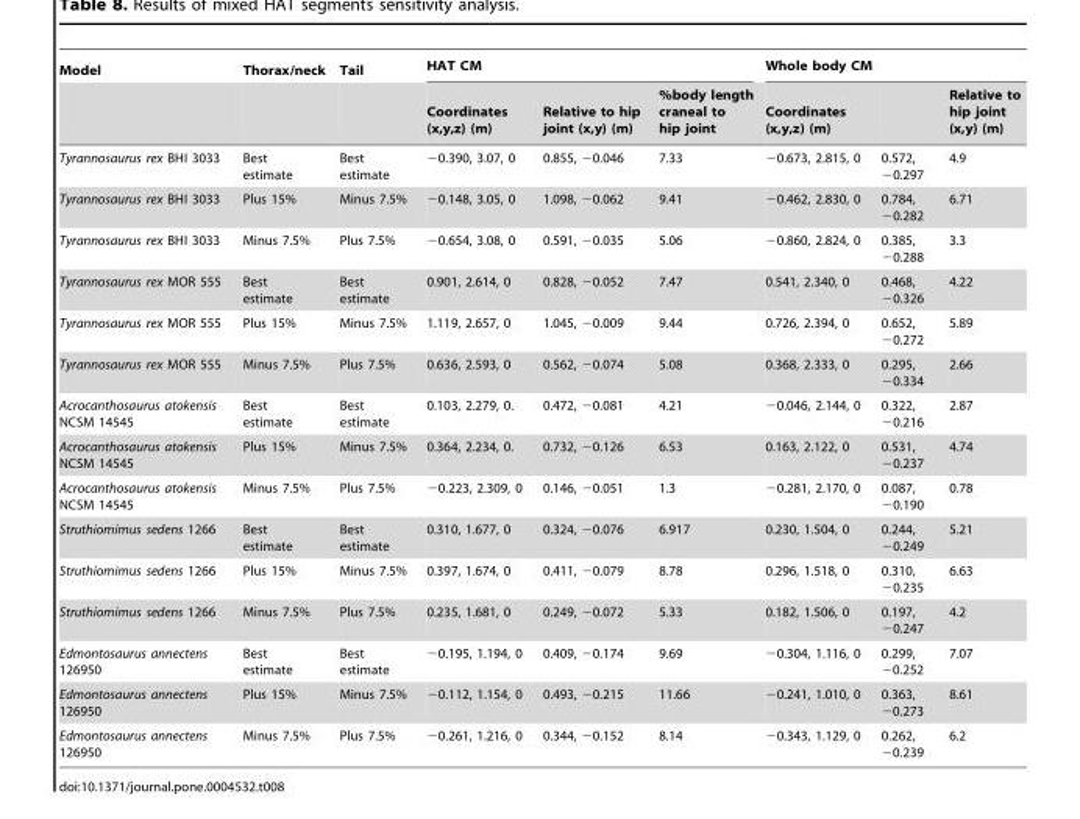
<table><thead><tr><td rowspan="2">Model</td><td rowspan="2">Thorax/neck</td><td rowspan="2">Tail</td><td colspan="3">HAT CM</td><td colspan="3">Whole body CM</td></tr><tr><td>Coordinates (x,y,z) (m)</td><td>Relative to hip joint (x,y) (m)</td><td>%body length craneal to hip joint</td><td>Coordinates (x,y,z) (m)</td><td></td><td>Relative to hip joint (x,y) (m)</td></tr></thead><tbody><tr><td>Tyrannosaurus rex BHI 3033</td><td>Best estimate</td><td>Best estimate</td><td>−0.390, 3.07, 0</td><td>0.855, −0.046</td><td>7.33</td><td>−0.673, 2.815, 0</td><td>0.572, −0.297</td><td>4.9</td></tr><tr><td>Tyrannosaurus rex BHI 3033</td><td>Plus 15%</td><td>Minus 7.5%</td><td>−0.148, 3.05, 0</td><td>1.098, −0.062</td><td>9.41</td><td>−0.462, 2.830, 0</td><td>0.784, −0.282</td><td>6.71</td></tr><tr><td>Tyrannosaurus rex BHI 3033</td><td>Minus 7.5%</td><td>Plus 7.5%</td><td>−0.654, 3.08, 0</td><td>0.591, −0.035</td><td>5.06</td><td>−0.860, 2.824, 0</td><td>0.385, −0.288</td><td>3.3</td></tr><tr><td>Tyrannosaurus rex MOR 555</td><td>Best estimate</td><td>Best estimate</td><td>0.901, 2.614, 0</td><td>0.828, −0.052</td><td>7.47</td><td>0.541, 2.340, 0</td><td>0.468, −0.326</td><td>4.22</td></tr><tr><td>Tyrannosaurus rex MOR 555</td><td>Plus 15%</td><td>Minus 7.5%</td><td>1.119, 2.657, 0</td><td>1.045, −0.009</td><td>9.44</td><td>0.726, 2.394, 0</td><td>0.652, −0.272</td><td>5.89</td></tr><tr><td>Tyrannosaurus rex MOR 555</td><td>Minus 7.5%</td><td>Plus 7.5%</td><td>0.636, 2.593, 0</td><td>0.562, −0.074</td><td>5.08</td><td>0.368, 2.333, 0</td><td>0.295, −0.334</td><td>2.66</td></tr><tr><td>Acrocanthosaurus atokensis NCSM 14545</td><td>Best estimate</td><td>Best estimate</td><td>0.103, 2.279, 0.</td><td>0.472, −0.081</td><td>4.21</td><td>−0.046, 2.144, 0</td><td>0.322, −0.216</td><td>2.87</td></tr><tr><td>Acrocanthosaurus atokensis NCSM 14545</td><td>Plus 15%</td><td>Minus 7.5%</td><td>0.364, 2.234, 0.</td><td>0.732, −0.126</td><td>6.53</td><td>0.163, 2.122, 0</td><td>0.531, −0.237</td><td>4.74</td></tr><tr><td>Acrocanthosaurus atokensis NCSM 14545</td><td>Minus 7.5%</td><td>Plus 7.5%</td><td>−0.223, 2.309, 0</td><td>0.146, −0.051</td><td>1.3</td><td>−0.281, 2.170, 0</td><td>0.087, −0.190</td><td>0.78</td></tr><tr><td>Struthiomimus sedens 1266</td><td>Best estimate</td><td>Best estimate</td><td>0.310, 1.677, 0</td><td>0.324, −0.076</td><td>6.917</td><td>0.230, 1.504, 0</td><td>0.244, −0.249</td><td>5.21</td></tr><tr><td>Struthiomimus sedens 1266</td><td>Plus 15%</td><td>Minus 7.5%</td><td>0.397, 1.674, 0</td><td>0.411, −0.079</td><td>8.78</td><td>0.296, 1.518, 0</td><td>0.310, −0.235</td><td>6.63</td></tr><tr><td>Struthiomimus sedens 1266</td><td>Minus 7.5%</td><td>Plus 7.5%</td><td>0.235, 1.681, 0</td><td>0.249, −0.072</td><td>5.33</td><td>0.182, 1.506, 0</td><td>0.197, −0.247</td><td>4.2</td></tr><tr><td>Edmontosaurus annectens 126950</td><td>Best estimate</td><td>Best estimate</td><td>−0.195, 1.194, 0</td><td>0.409, −0.174</td><td>9.69</td><td>−0.304, 1.116, 0</td><td>0.299, −0.252</td><td>7.07</td></tr><tr><td>Edmontosaurus annectens 126950</td><td>Plus 15%</td><td>Minus 7.5%</td><td>−0.112, 1.154, 0</td><td>0.493, −0.215</td><td>11.66</td><td>−0.241, 1.010, 0</td><td>0.363, −0.273</td><td>8.61</td></tr><tr><td>Edmontosaurus annectens 126950</td><td>Minus 7.5%</td><td>Plus 7.5%</td><td>−0.261, 1.216, 0</td><td>0.344, −0.152</td><td>8.14</td><td>−0.343, 1.129, 0</td><td>0.262, −0.239</td><td>6.2</td></tr></tbody></table>